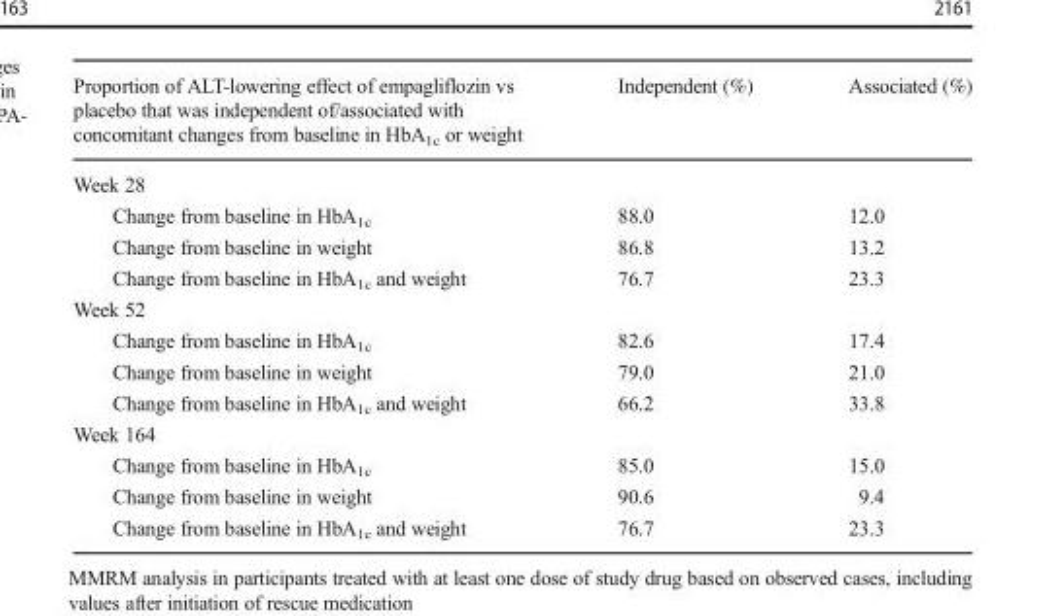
<table><thead><tr><td>Proportion of ALT-lowering effect of empagliflozin vs placebo that was independent of/associated with concomitant changes from baseline in HbA<sub>1c</sub> or weight</td><td>Independent (%)</td><td>Associated (%)</td></tr></thead><tbody><tr><td colspan="3">Week 28</td></tr><tr><td>Change from baseline in HbA<sub>1c</sub></td><td>88.0</td><td>12.0</td></tr><tr><td>Change from baseline in weight</td><td>86.8</td><td>13.2</td></tr><tr><td>Change from baseline in HbA<sub>1c</sub> and weight</td><td>76.7</td><td>23.3</td></tr><tr><td colspan="3">Week 52</td></tr><tr><td>Change from baseline in HbA<sub>1c</sub></td><td>82.6</td><td>17.4</td></tr><tr><td>Change from baseline in weight</td><td>79.0</td><td>21.0</td></tr><tr><td>Change from baseline in HbA<sub>1c</sub> and weight</td><td>66.2</td><td>33.8</td></tr><tr><td colspan="3">Week 164</td></tr><tr><td>Change from baseline in HbA<sub>1c</sub></td><td>85.0</td><td>15.0</td></tr><tr><td>Change from baseline in weight</td><td>90.6</td><td>9.4</td></tr><tr><td>Change from baseline in HbA<sub>1c</sub> and weight</td><td>76.7</td><td>23.3</td></tr></tbody></table>